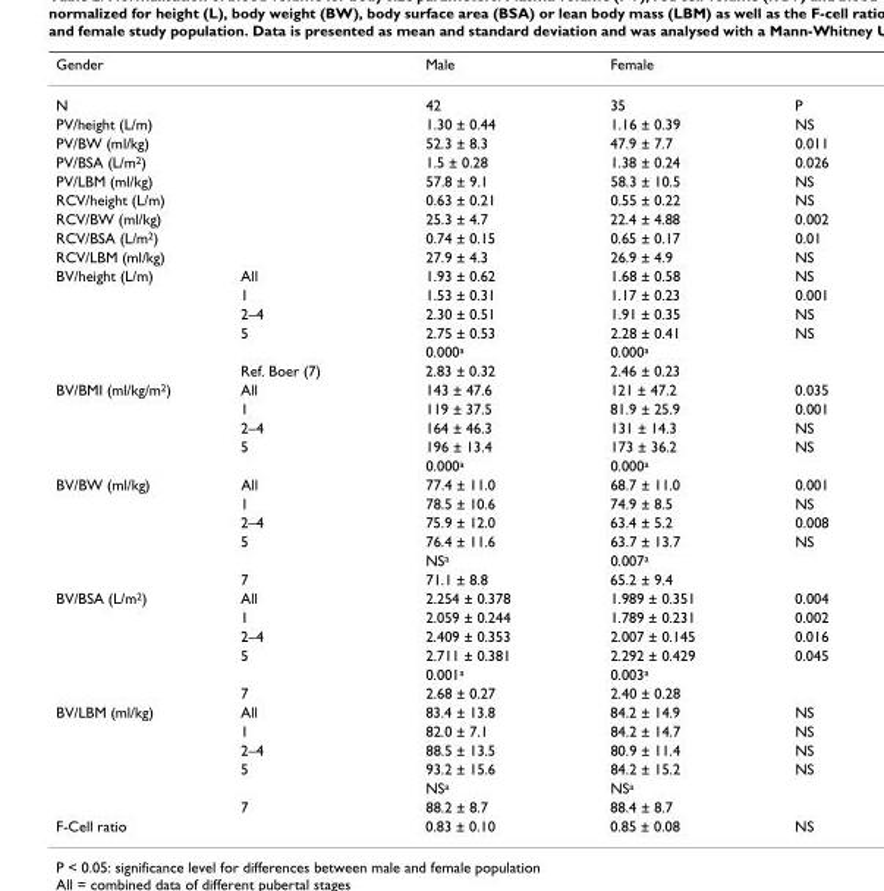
<table><thead><tr><td>Gender</td><td></td><td>Male</td><td>Female</td><td></td></tr></thead><tbody><tr><td>N</td><td></td><td>42</td><td>35</td><td>P</td></tr><tr><td>PV/height (L/m)</td><td></td><td>1.30 ± 0.44</td><td>1.16 ± 0.39</td><td>NS</td></tr><tr><td>PV/BW (ml/kg)</td><td></td><td>52.3 ± 8.3</td><td>47.9 ± 7.7</td><td>0.011</td></tr><tr><td>PV/BSA (L/m<sup>2</sup>)</td><td></td><td>1.5 ± 0.28</td><td>1.38 ± 0.24</td><td>0.026</td></tr><tr><td>PV/LBM (ml/kg)</td><td></td><td>57.8 ± 9.1</td><td>58.3 ± 10.5</td><td>NS</td></tr><tr><td>RCV/height (L/m)</td><td></td><td>0.63 ± 0.21</td><td>0.55 ± 0.22</td><td>NS</td></tr><tr><td>RCV/BW (ml/kg)</td><td></td><td>25.3 ± 4.7</td><td>22.4 ± 4.88</td><td>0.002</td></tr><tr><td>RCV/BSA (L/m<sup>2</sup>)</td><td></td><td>0.74 ± 0.15</td><td>0.65 ± 0.17</td><td>0.01</td></tr><tr><td>RCV/LBM (ml/kg)</td><td></td><td>27.9 ± 4.3</td><td>26.9 ± 4.9</td><td>NS</td></tr><tr><td rowspan="6">BV/height (L/m)</td><td>All</td><td>1.93 ± 0.62</td><td>1.68 ± 0.58</td><td>NS</td></tr><tr><td>1</td><td>1.53 ± 0.31</td><td>1.17 ± 0.23</td><td>0.001</td></tr><tr><td>2–4</td><td>2.30 ± 0.51</td><td>1.91 ± 0.35</td><td>NS</td></tr><tr><td>5</td><td>2.75 ± 0.53</td><td>2.28 ± 0.41</td><td>NS</td></tr><tr><td></td><td>0.000<sup>a</sup></td><td>0.000<sup>a</sup></td><td></td></tr><tr><td>Ref. Boer (7)</td><td>2.83 ± 0.32</td><td>2.46 ± 0.23</td><td></td></tr><tr><td rowspan="5">BV/BMI (ml/kg/m<sup>2</sup>)</td><td>All</td><td>143 ± 47.6</td><td>121 ± 47.2</td><td>0.035</td></tr><tr><td>1</td><td>119 ± 37.5</td><td>81.9 ± 25.9</td><td>0.001</td></tr><tr><td>2–4</td><td>164 ± 46.3</td><td>131 ± 14.3</td><td>NS</td></tr><tr><td>5</td><td>196 ± 13.4</td><td>173 ± 36.2</td><td>NS</td></tr><tr><td></td><td>0.000<sup>a</sup></td><td>0.000<sup>a</sup></td><td></td></tr><tr><td rowspan="6">BV/BW (ml/kg)</td><td>All</td><td>77.4 ± 11.0</td><td>68.7 ± 11.0</td><td>0.001</td></tr><tr><td>1</td><td>78.5 ± 10.6</td><td>74.9 ± 8.5</td><td>NS</td></tr><tr><td>2–4</td><td>75.9 ± 12.0</td><td>63.4 ± 5.2</td><td>0.008</td></tr><tr><td>5</td><td>76.4 ± 11.6</td><td>63.7 ± 13.7</td><td>NS</td></tr><tr><td></td><td>NS<sup>a</sup></td><td>0.007<sup>a</sup></td><td></td></tr><tr><td>7</td><td>71.1 ± 8.8</td><td>65.2 ± 9.4</td><td></td></tr><tr><td rowspan="6">BV/BSA (L/m<sup>2</sup>)</td><td>All</td><td>2.254 ± 0.378</td><td>1.989 ± 0.351</td><td>0.004</td></tr><tr><td>1</td><td>2.059 ± 0.244</td><td>1.789 ± 0.231</td><td>0.002</td></tr><tr><td>2–4</td><td>2.409 ± 0.353</td><td>2.007 ± 0.145</td><td>0.016</td></tr><tr><td>5</td><td>2.711 ± 0.381</td><td>2.292 ± 0.429</td><td>0.045</td></tr><tr><td></td><td>0.001<sup>a</sup></td><td>0.003<sup>a</sup></td><td></td></tr><tr><td>7</td><td>2.68 ± 0.27</td><td>2.40 ± 0.28</td><td></td></tr><tr><td rowspan="6">BV/LBM (ml/kg)</td><td>All</td><td>83.4 ± 13.8</td><td>84.2 ± 14.9</td><td>NS</td></tr><tr><td>1</td><td>82.0 ± 7.1</td><td>84.2 ± 14.7</td><td>NS</td></tr><tr><td>2–4</td><td>88.5 ± 13.5</td><td>80.9 ± 11.4</td><td>NS</td></tr><tr><td>5</td><td>93.2 ± 15.6</td><td>84.2 ± 15.2</td><td>NS</td></tr><tr><td></td><td>NS<sup>a</sup></td><td>NS<sup>a</sup></td><td></td></tr><tr><td>7</td><td>88.2 ± 8.7</td><td>88.4 ± 8.7</td><td></td></tr><tr><td>F-Cell ratio</td><td></td><td>0.83 ± 0.10</td><td>0.85 ± 0.08</td><td>NS</td></tr></tbody></table>